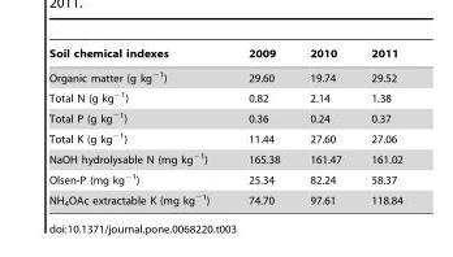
<table><thead><tr><td>Soil chemical indexes</td><td>2009</td><td>2010</td><td>2011</td></tr></thead><tbody><tr><td>Organic matter (g kg<sup>−1</sup>)</td><td>29.60</td><td>19.74</td><td>29.52</td></tr><tr><td>Total N (g kg<sup>−1</sup>)</td><td>0.82</td><td>2.14</td><td>1.38</td></tr><tr><td>Total P (g kg<sup>−1</sup>)</td><td>0.36</td><td>0.24</td><td>0.37</td></tr><tr><td>Total K (g kg<sup>−1</sup>)</td><td>11.44</td><td>27.60</td><td>27.06</td></tr><tr><td>NaOH hydrolysable N (mg kg<sup>−1</sup>)</td><td>165.38</td><td>161.47</td><td>161.02</td></tr><tr><td>Olsen-P (mg kg<sup>−1</sup>)</td><td>25.34</td><td>82.24</td><td>58.37</td></tr><tr><td>NH<sub>4</sub>OAc extractable K (mg kg<sup>−1</sup>)</td><td>74.70</td><td>97.61</td><td>118.84</td></tr></tbody></table>